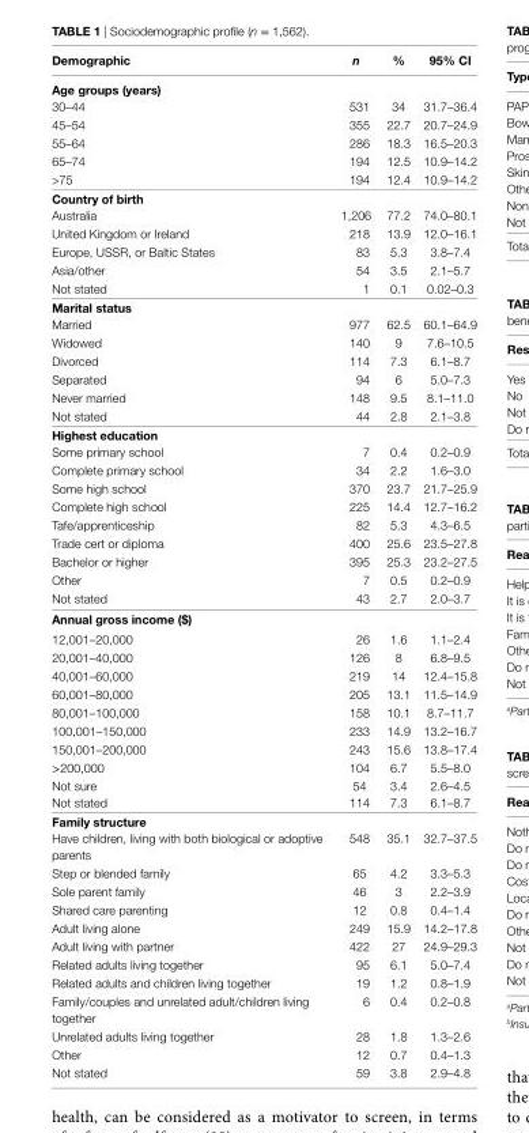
<table><thead><tr><td>Demographic</td><td>n</td><td>%</td><td>95% ci</td></tr></thead><tbody><tr><td colspan="4">age groups (years)</td></tr><tr><td>30–44</td><td>531</td><td>34</td><td>31.7–36.4</td></tr><tr><td>45–54</td><td>355</td><td>22.7</td><td>20.7–24.9</td></tr><tr><td>55–64</td><td>286</td><td>18.3</td><td>16.5–20.3</td></tr><tr><td>65–74</td><td>194</td><td>12.5</td><td>10.9–14.2</td></tr><tr><td>&gt;75</td><td>194</td><td>12.4</td><td>10.9–14.2</td></tr><tr><td colspan="4">country of birth</td></tr><tr><td>Australia</td><td>1,206</td><td>77.2</td><td>74.0–80.1</td></tr><tr><td>United Kingdom or Ireland</td><td>218</td><td>13.9</td><td>12.0–16.1</td></tr><tr><td>Europe, USSR, or Baltic States</td><td>83</td><td>5.3</td><td>3.8–7.4</td></tr><tr><td>Asia/other</td><td>54</td><td>3.5</td><td>2.1–5.7</td></tr><tr><td>Not stated</td><td>1</td><td>0.1</td><td>0.02–0.3</td></tr><tr><td colspan="4">Marital status</td></tr><tr><td>Married</td><td>977</td><td>62.5</td><td>60.1–64.9</td></tr><tr><td>Widowed</td><td>140</td><td>9</td><td>7.6–10.5</td></tr><tr><td>Divorced</td><td>114</td><td>7.3</td><td>6.1–8.7</td></tr><tr><td>Separated</td><td>94</td><td>6</td><td>5.0–7.3</td></tr><tr><td>Never married</td><td>148</td><td>9.5</td><td>8.1–11.0</td></tr><tr><td>Not stated</td><td>44</td><td>2.8</td><td>2.1–3.8</td></tr><tr><td colspan="4">highest education</td></tr><tr><td>Some primary school</td><td>7</td><td>0.4</td><td>0.2–0.9</td></tr><tr><td>Complete primary school</td><td>34</td><td>2.2</td><td>1.6–3.0</td></tr><tr><td>Some high school</td><td>370</td><td>23.7</td><td>21.7–25.9</td></tr><tr><td>Complete high school</td><td>225</td><td>14.4</td><td>12.7–16.2</td></tr><tr><td>Tafe/apprenticeship</td><td>82</td><td>5.3</td><td>4.3–6.5</td></tr><tr><td>Trade cert or diploma</td><td>400</td><td>25.6</td><td>23.5–27.8</td></tr><tr><td>Bachelor or higher</td><td>395</td><td>25.3</td><td>23.2–27.5</td></tr><tr><td>Other</td><td>7</td><td>0.5</td><td>0.2–0.9</td></tr><tr><td>Not stated</td><td>43</td><td>2.7</td><td>2.0–3.7</td></tr><tr><td colspan="4">annual gross income ($)</td></tr><tr><td>12,001–20,000</td><td>26</td><td>1.6</td><td>1.1–2.4</td></tr><tr><td>20,001–40,000</td><td>126</td><td>8</td><td>6.8–9.5</td></tr><tr><td>40,001–60,000</td><td>219</td><td>14</td><td>12.4–15.8</td></tr><tr><td>60,001–80,000</td><td>205</td><td>13.1</td><td>11.5–14.9</td></tr><tr><td>80,001–100,000</td><td>158</td><td>10.1</td><td>8.7–11.7</td></tr><tr><td>100,001–150,000</td><td>233</td><td>14.9</td><td>13.2–16.7</td></tr><tr><td>150,001–200,000</td><td>243</td><td>15.6</td><td>13.8–17.4</td></tr><tr><td>&gt;200,000</td><td>104</td><td>6.7</td><td>5.5–8.0</td></tr><tr><td>Not sure</td><td>54</td><td>3.4</td><td>2.6–4.5</td></tr><tr><td>Not stated</td><td>114</td><td>7.3</td><td>6.1–8.7</td></tr><tr><td colspan="4">Family structure</td></tr><tr><td>Have children, living with both biological or adoptive parents</td><td>548</td><td>35.1</td><td>32.7–37.5</td></tr><tr><td>Step or blended family</td><td>65</td><td>4.2</td><td>3.3–5.3</td></tr><tr><td>Sole parent family</td><td>46</td><td>3</td><td>2.2–3.9</td></tr><tr><td>Shared care parenting</td><td>12</td><td>0.8</td><td>0.4–1.4</td></tr><tr><td>Adult living alone</td><td>249</td><td>15.9</td><td>14.2–17.8</td></tr><tr><td>Adult living with partner</td><td>422</td><td>27</td><td>24.9–29.3</td></tr><tr><td>Related adults living together</td><td>95</td><td>6.1</td><td>5.0–7.4</td></tr><tr><td>Related adults and children living together</td><td>19</td><td>1.2</td><td>0.8–1.9</td></tr><tr><td>Family/couples and unrelated adult/children living together</td><td>6</td><td>0.4</td><td>0.2–0.8</td></tr><tr><td>Unrelated adults living together</td><td>28</td><td>1.8</td><td>1.3–2.6</td></tr><tr><td>Other</td><td>12</td><td>0.7</td><td>0.4–1.3</td></tr><tr><td>Not stated</td><td>59</td><td>3.8</td><td>2.9–4.8</td></tr></tbody></table>